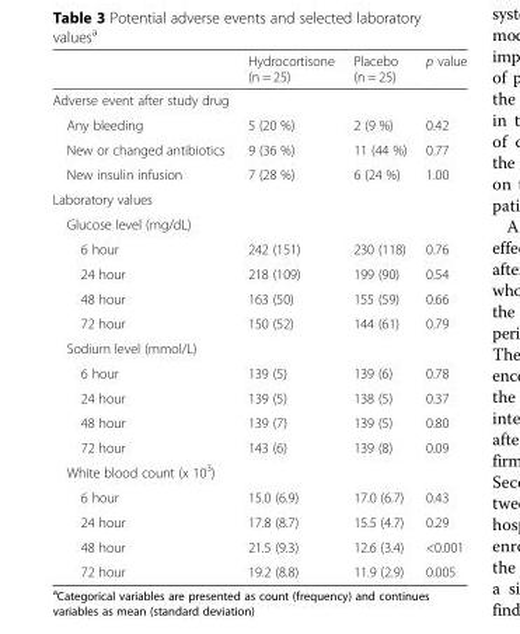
<table><thead><tr><td></td><td>Hydrocortisone (n = 25)</td><td>Placebo (n = 25)</td><td>p value</td></tr></thead><tbody><tr><td colspan="4">Adverse event after study drug</td></tr><tr><td>Any bleeding</td><td>5 (20 %)</td><td>2 (9 %)</td><td>0.42</td></tr><tr><td>New or changed antibiotics</td><td>9 (36 %)</td><td>11 (44 %)</td><td>0.77</td></tr><tr><td>New insulin infusion</td><td>7 (28 %)</td><td>6 (24 %)</td><td>1.00</td></tr><tr><td colspan="4">Laboratory values</td></tr><tr><td colspan="4">Glucose level (mg/dL)</td></tr><tr><td>6 hour</td><td>242 (151)</td><td>230 (118)</td><td>0.76</td></tr><tr><td>24 hour</td><td>218 (109)</td><td>199 (90)</td><td>0.54</td></tr><tr><td>48 hour</td><td>163 (50)</td><td>155 (59)</td><td>0.66</td></tr><tr><td>72 hour</td><td>150 (52)</td><td>144 (61)</td><td>0.79</td></tr><tr><td colspan="4">Sodium level (mmol/L)</td></tr><tr><td>6 hour</td><td>139 (5)</td><td>139 (6)</td><td>0.78</td></tr><tr><td>24 hour</td><td>139 (5)</td><td>138 (5)</td><td>0.37</td></tr><tr><td>48 hour</td><td>139 (7)</td><td>139 (5)</td><td>0.80</td></tr><tr><td>72 hour</td><td>143 (6)</td><td>139 (8)</td><td>0.09</td></tr><tr><td colspan="4">White blood count (x 10<sup>3</sup>)</td></tr><tr><td>6 hour</td><td>15.0 (6.9)</td><td>17.0 (6.7)</td><td>0.43</td></tr><tr><td>24 hour</td><td>17.8 (8.7)</td><td>15.5 (4.7)</td><td>0.29</td></tr><tr><td>48 hour</td><td>21.5 (9.3)</td><td>12.6 (3.4)</td><td>&lt;0.001</td></tr><tr><td>72 hour</td><td>19.2 (8.8)</td><td>11.9 (2.9)</td><td>0.005</td></tr></tbody></table>